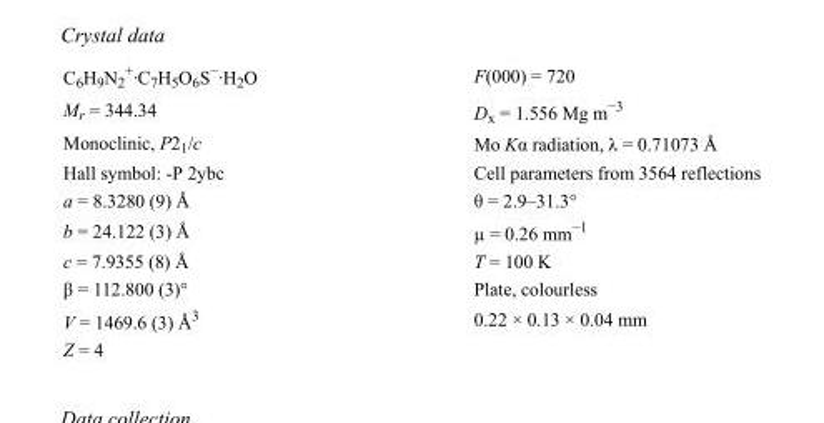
<table><tbody><tr><td>C<sub>6</sub>H<sub>9</sub>N<sub>2</sub> <sup>+</sup>·C<sub>7</sub>H<sub>5</sub>O<sub>6</sub>S<sup>−</sup>·H<sub>2</sub>O</td><td>F(000) = 720</td></tr><tr><td>M<sub>r</sub> = 344.34</td><td>D<sub>x</sub> = 1.556 Mg m<sup>−3</sup></td></tr><tr><td>Monoclinic, P2<sub>1</sub>/c</td><td>Mo Kα radiation, λ = 0.71073 Å</td></tr><tr><td>Hall symbol: -P 2ybc</td><td>Cell parameters from 3564 reflections</td></tr><tr><td>a = 8.3280 (9) Å</td><td>θ = 2.9–31.3°</td></tr><tr><td>b = 24.122 (3) Å</td><td>µ = 0.26 mm<sup>−1</sup></td></tr><tr><td>c = 7.9355 (8) Å</td><td>T = 100 K</td></tr><tr><td>β = 112.800 (3)°</td><td>Plate, colourless</td></tr><tr><td>V = 1469.6 (3) Å<sup>3</sup></td><td>0.22 × 0.13 × 0.04 mm</td></tr><tr><td>Z = 4</td><td></td></tr></tbody></table>